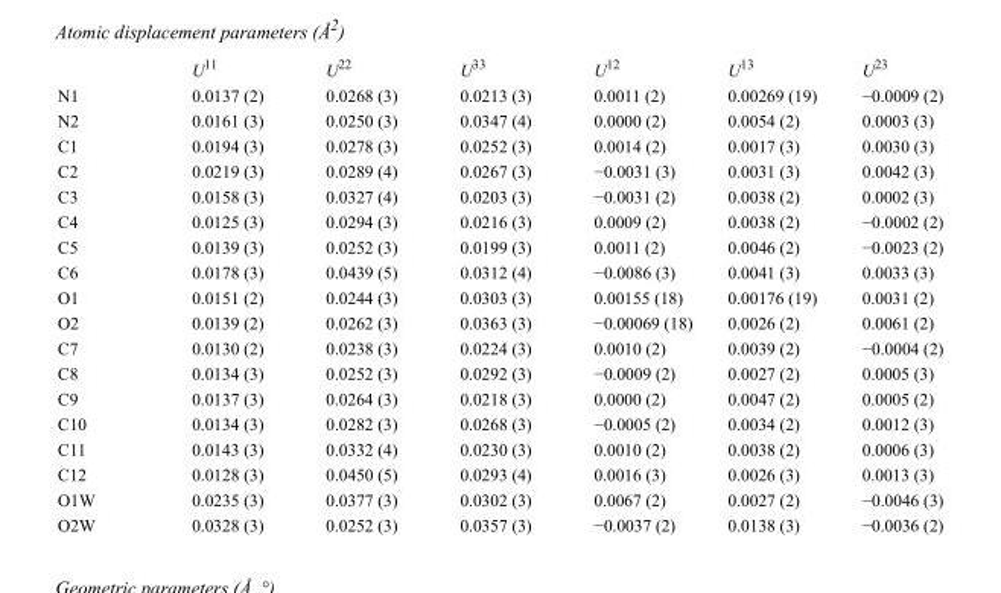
<table><thead><tr><td></td><td>U<sup>11</sup></td><td>U<sup>22</sup></td><td>U<sup>33</sup></td><td>U<sup>12</sup></td><td>U<sup>13</sup></td><td>U<sup>23</sup></td></tr></thead><tbody><tr><td>N1</td><td>0.0137 (2)</td><td>0.0268 (3)</td><td>0.0213 (3)</td><td>0.0011 (2)</td><td>0.00269 (19)</td><td>−0.0009 (2)</td></tr><tr><td>N2</td><td>0.0161 (3)</td><td>0.0250 (3)</td><td>0.0347 (4)</td><td>0.0000 (2)</td><td>0.0054 (2)</td><td>0.0003 (3)</td></tr><tr><td>C1</td><td>0.0194 (3)</td><td>0.0278 (3)</td><td>0.0252 (3)</td><td>0.0014 (2)</td><td>0.0017 (3)</td><td>0.0030 (3)</td></tr><tr><td>C2</td><td>0.0219 (3)</td><td>0.0289 (4)</td><td>0.0267 (3)</td><td>−0.0031 (3)</td><td>0.0031 (3)</td><td>0.0042 (3)</td></tr><tr><td>C3</td><td>0.0158 (3)</td><td>0.0327 (4)</td><td>0.0203 (3)</td><td>−0.0031 (2)</td><td>0.0038 (2)</td><td>0.0002 (3)</td></tr><tr><td>C4</td><td>0.0125 (3)</td><td>0.0294 (3)</td><td>0.0216 (3)</td><td>0.0009 (2)</td><td>0.0038 (2)</td><td>−0.0002 (2)</td></tr><tr><td>C5</td><td>0.0139 (3)</td><td>0.0252 (3)</td><td>0.0199 (3)</td><td>0.0011 (2)</td><td>0.0046 (2)</td><td>−0.0023 (2)</td></tr><tr><td>C6</td><td>0.0178 (3)</td><td>0.0439 (5)</td><td>0.0312 (4)</td><td>−0.0086 (3)</td><td>0.0041 (3)</td><td>0.0033 (3)</td></tr><tr><td>O1</td><td>0.0151 (2)</td><td>0.0244 (3)</td><td>0.0303 (3)</td><td>0.00155 (18)</td><td>0.00176 (19)</td><td>0.0031 (2)</td></tr><tr><td>O2</td><td>0.0139 (2)</td><td>0.0262 (3)</td><td>0.0363 (3)</td><td>−0.00069 (18)</td><td>0.0026 (2)</td><td>0.0061 (2)</td></tr><tr><td>C7</td><td>0.0130 (2)</td><td>0.0238 (3)</td><td>0.0224 (3)</td><td>0.0010 (2)</td><td>0.0039 (2)</td><td>−0.0004 (2)</td></tr><tr><td>C8</td><td>0.0134 (3)</td><td>0.0252 (3)</td><td>0.0292 (3)</td><td>−0.0009 (2)</td><td>0.0027 (2)</td><td>0.0005 (3)</td></tr><tr><td>C9</td><td>0.0137 (3)</td><td>0.0264 (3)</td><td>0.0218 (3)</td><td>0.0000 (2)</td><td>0.0047 (2)</td><td>0.0005 (2)</td></tr><tr><td>C10</td><td>0.0134 (3)</td><td>0.0282 (3)</td><td>0.0268 (3)</td><td>−0.0005 (2)</td><td>0.0034 (2)</td><td>0.0012 (3)</td></tr><tr><td>C11</td><td>0.0143 (3)</td><td>0.0332 (4)</td><td>0.0230 (3)</td><td>0.0010 (2)</td><td>0.0038 (2)</td><td>0.0006 (3)</td></tr><tr><td>C12</td><td>0.0128 (3)</td><td>0.0450 (5)</td><td>0.0293 (4)</td><td>0.0016 (3)</td><td>0.0026 (3)</td><td>0.0013 (3)</td></tr><tr><td>O1W</td><td>0.0235 (3)</td><td>0.0377 (3)</td><td>0.0302 (3)</td><td>0.0067 (2)</td><td>0.0027 (2)</td><td>−0.0046 (3)</td></tr><tr><td>O2W</td><td>0.0328 (3)</td><td>0.0252 (3)</td><td>0.0357 (3)</td><td>−0.0037 (2)</td><td>0.0138 (3)</td><td>−0.0036 (2)</td></tr></tbody></table>